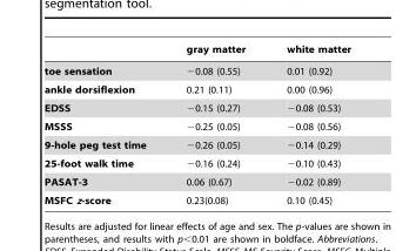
<table><thead><tr><td></td><td>gray matter</td><td>white matter</td></tr></thead><tbody><tr><td>toe sensation</td><td>−0.08 (0.55)</td><td>0.01 (0.92)</td></tr><tr><td>ankle dorsiflexion</td><td>0.21 (0.11)</td><td>0.00 (0.96)</td></tr><tr><td>EDSS</td><td>−0.15 (0.27)</td><td>−0.08 (0.53)</td></tr><tr><td>MSSS</td><td>−0.25 (0.05)</td><td>−0.08 (0.56)</td></tr><tr><td>9-hole peg test time</td><td>−0.26 (0.05)</td><td>−0.14 (0.29)</td></tr><tr><td>25-foot walk time</td><td>−0.16 (0.24)</td><td>−0.10 (0.43)</td></tr><tr><td>PASAT-3</td><td>0.06 (0.67)</td><td>−0.02 (0.89)</td></tr><tr><td>MSFC z-score</td><td>0.23(0.08)</td><td>0.10 (0.45)</td></tr></tbody></table>